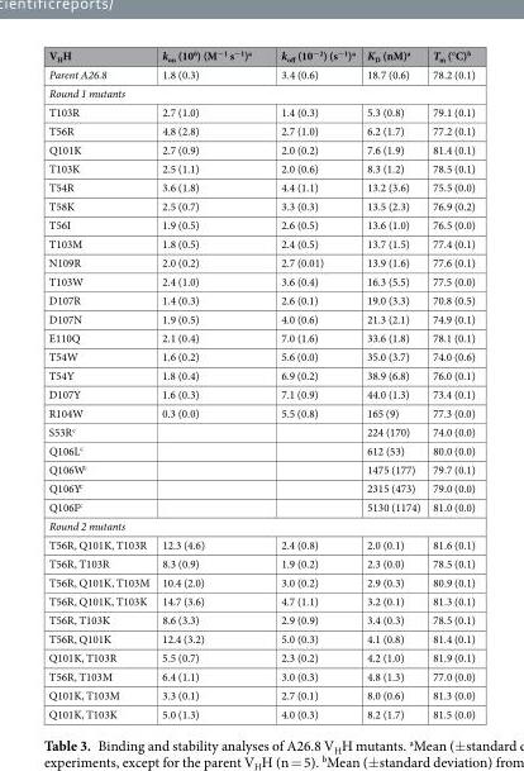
<table><thead><tr><td>V<sub>H</sub>H</td><td>k<sub>on</sub> (10<sup>6</sup>) (M<sup>−1</sup> s<sup>−1</sup>)<sup>a</sup></td><td>k<sub>off</sub> (10<sup>−2</sup>) (s<sup>−1</sup>)<sup>a</sup></td><td>K<sub>D</sub> (nM)<sup>a</sup></td><td>T<sub>m</sub> (°C)<sup>b</sup></td></tr></thead><tbody><tr><td>Parent A26.8</td><td>1.8 (0.3)</td><td>3.4 (0.6)</td><td>18.7 (0.6)</td><td>78.2 (0.1)</td></tr><tr><td colspan="5">Round 1 mutants</td></tr><tr><td>T103R</td><td>2.7 (1.0)</td><td>1.4 (0.3)</td><td>5.3 (0.8)</td><td>79.1 (0.1)</td></tr><tr><td>T56R</td><td>4.8 (2.8)</td><td>2.7 (1.0)</td><td>6.2 (1.7)</td><td>77.2 (0.1)</td></tr><tr><td>Q101K</td><td>2.7 (0.9)</td><td>2.0 (0.2)</td><td>7.6 (1.9)</td><td>81.4 (0.1)</td></tr><tr><td>T103K</td><td>2.5 (1.1)</td><td>2.0 (0.6)</td><td>8.3 (1.2)</td><td>78.5 (0.1)</td></tr><tr><td>T54R</td><td>3.6 (1.8)</td><td>4.4 (1.1)</td><td>13.2 (3.6)</td><td>75.5 (0.0)</td></tr><tr><td>T58K</td><td>2.5 (0.7)</td><td>3.3 (0.3)</td><td>13.5 (2.3)</td><td>76.9 (0.2)</td></tr><tr><td>T56I</td><td>1.9 (0.5)</td><td>2.6 (0.5)</td><td>13.6 (1.0)</td><td>76.5 (0.0)</td></tr><tr><td>T103M</td><td>1.8 (0.5)</td><td>2.4 (0.5)</td><td>13.7 (1.5)</td><td>77.4 (0.1)</td></tr><tr><td>N109R</td><td>2.0 (0.2)</td><td>2.7 (0.01)</td><td>13.9 (1.6)</td><td>77.6 (0.1)</td></tr><tr><td>T103W</td><td>2.4 (1.0)</td><td>3.6 (0.4)</td><td>16.3 (5.5)</td><td>77.5 (0.0)</td></tr><tr><td>D107R</td><td>1.4 (0.3)</td><td>2.6 (0.1)</td><td>19.0 (3.3)</td><td>70.8 (0.5)</td></tr><tr><td>D107N</td><td>1.9 (0.5)</td><td>4.0 (0.6)</td><td>21.3 (2.1)</td><td>74.9 (0.1)</td></tr><tr><td>E110Q</td><td>2.1 (0.4)</td><td>7.0 (1.6)</td><td>33.6 (1.8)</td><td>78.1 (0.1)</td></tr><tr><td>T54W</td><td>1.6 (0.2)</td><td>5.6 (0.0)</td><td>35.0 (3.7)</td><td>74.0 (0.6)</td></tr><tr><td>T54Y</td><td>1.8 (0.4)</td><td>6.9 (0.2)</td><td>38.9 (6.8)</td><td>76.0 (0.1)</td></tr><tr><td>D107Y</td><td>1.6 (0.3)</td><td>7.1 (0.9)</td><td>44.0 (1.3)</td><td>73.4 (0.1)</td></tr><tr><td>R104W</td><td>0.3 (0.0)</td><td>5.5 (0.8)</td><td>165 (9)</td><td>77.3 (0.0)</td></tr><tr><td>S53R<sup>c</sup></td><td></td><td></td><td>224 (170)</td><td>74.0 (0.0)</td></tr><tr><td>Q106L<sup>c</sup></td><td></td><td></td><td>612 (53)</td><td>80.0 (0.0)</td></tr><tr><td>Q106W<sup>c</sup></td><td></td><td></td><td>1475 (177)</td><td>79.7 (0.1)</td></tr><tr><td>Q106Y<sup>c</sup></td><td></td><td></td><td>2315 (473)</td><td>79.0 (0.0)</td></tr><tr><td>Q106F<sup>c</sup></td><td></td><td></td><td>5130 (1174)</td><td>81.0 (0.0)</td></tr><tr><td colspan="5">Round 2 mutants</td></tr><tr><td>T56R, Q101K, T103R</td><td>12.3 (4.6)</td><td>2.4 (0.8)</td><td>2.0 (0.1)</td><td>81.6 (0.1)</td></tr><tr><td>T56R, T103R</td><td>8.3 (0.9)</td><td>1.9 (0.2)</td><td>2.3 (0.0)</td><td>78.5 (0.1)</td></tr><tr><td>T56R, Q101K, T103M</td><td>10.4 (2.0)</td><td>3.0 (0.2)</td><td>2.9 (0.3)</td><td>80.9 (0.1)</td></tr><tr><td>T56R, Q101K, T103K</td><td>14.7 (3.6)</td><td>4.7 (1.1)</td><td>3.2 (0.1)</td><td>81.3 (0.1)</td></tr><tr><td>T56R, T103K</td><td>8.6 (3.3)</td><td>2.9 (0.9)</td><td>3.4 (0.3)</td><td>78.5 (0.1)</td></tr><tr><td>T56R, Q101K</td><td>12.4 (3.2)</td><td>5.0 (0.3)</td><td>4.1 (0.8)</td><td>81.4 (0.1)</td></tr><tr><td>Q101K, T103R</td><td>5.5 (0.7)</td><td>2.3 (0.2)</td><td>4.2 (1.0)</td><td>81.9 (0.1)</td></tr><tr><td>T56R, T103M</td><td>6.4 (1.1)</td><td>3.0 (0.3)</td><td>4.8 (1.3)</td><td>77.0 (0.0)</td></tr><tr><td>Q101K, T103M</td><td>3.3 (0.1)</td><td>2.7 (0.1)</td><td>8.0 (0.6)</td><td>81.3 (0.0)</td></tr><tr><td>Q101K, T103K</td><td>5.0 (1.3)</td><td>4.0 (0.3)</td><td>8.2 (1.7)</td><td>81.5 (0.0)</td></tr></tbody></table>